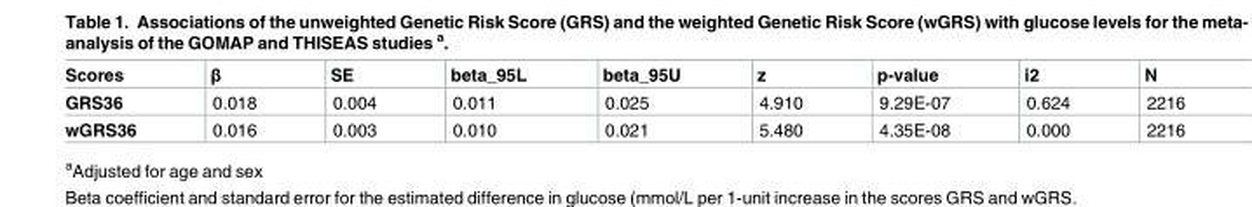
<table><thead><tr><td>Scores</td><td>β</td><td>SE</td><td>beta_95L</td><td>beta_95U</td><td>z</td><td>p-value</td><td>i2</td><td>N</td></tr></thead><tbody><tr><td>GRS36</td><td>0.018</td><td>0.004</td><td>0.011</td><td>0.025</td><td>4.910</td><td>9.29E-07</td><td>0.624</td><td>2216</td></tr><tr><td>wGRS36</td><td>0.016</td><td>0.003</td><td>0.010</td><td>0.021</td><td>5.480</td><td>4.35E-08</td><td>0.000</td><td>2216</td></tr></tbody></table>